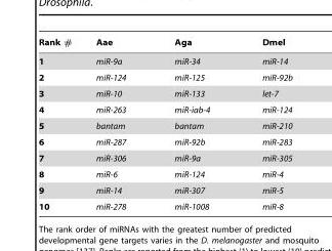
<table><thead><tr><td>Rank #</td><td>Aae</td><td>Aga</td><td>Dmel</td></tr></thead><tbody><tr><td>1</td><td>miR-9a</td><td>miR-34</td><td>miR-14</td></tr><tr><td>2</td><td>miR-124</td><td>miR-125</td><td>miR-92b</td></tr><tr><td>3</td><td>miR-10</td><td>miR-133</td><td>let-7</td></tr><tr><td>4</td><td>miR-263</td><td>miR-iab-4</td><td>miR-124</td></tr><tr><td>5</td><td>bantam</td><td>bantam</td><td>miR-210</td></tr><tr><td>6</td><td>miR-287</td><td>miR-92b</td><td>miR-283</td></tr><tr><td>7</td><td>miR-306</td><td>miR-9a</td><td>miR-305</td></tr><tr><td>8</td><td>miR-6</td><td>miR-124</td><td>miR-4</td></tr><tr><td>9</td><td>miR-14</td><td>miR-307</td><td>miR-5</td></tr><tr><td>10</td><td>miR-278</td><td>miR-1008</td><td>miR-8</td></tr></tbody></table>